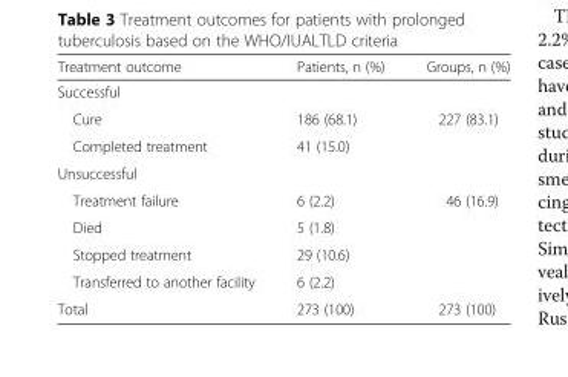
<table><thead><tr><td>Treatment outcome</td><td>Patients, n (%)</td><td>Groups, n (%)</td></tr></thead><tbody><tr><td colspan="3">Successful</td></tr><tr><td>Cure</td><td>186 (68.1)</td><td rowspan="2">227 (83.1)</td></tr><tr><td>Completed treatment</td><td>41 (15.0)</td></tr><tr><td colspan="3">Unsuccessful</td></tr><tr><td>Treatment failure</td><td>6 (2.2)</td><td rowspan="4">46 (16.9)</td></tr><tr><td>Died</td><td>5 (1.8)</td></tr><tr><td>Stopped treatment</td><td>29 (10.6)</td></tr><tr><td>Transferred to another facility</td><td>6 (2.2)</td></tr><tr><td>Total</td><td>273 (100)</td><td>273 (100)</td></tr></tbody></table>